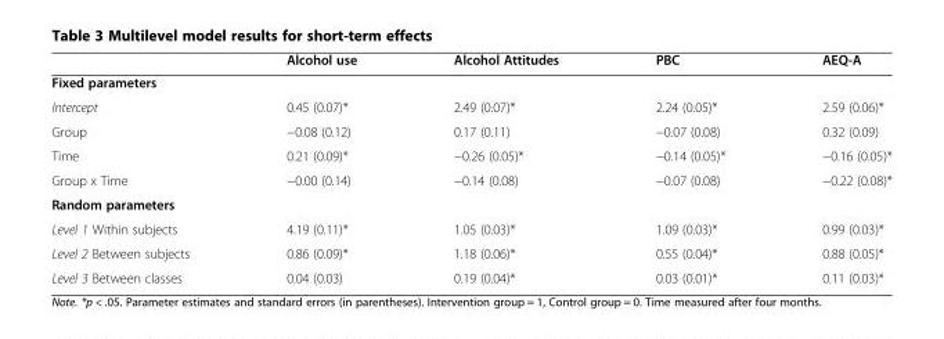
<table><thead><tr><td></td><td>Alcohol use</td><td>Alcohol Attitudes</td><td>PBC</td><td>AEQ-A</td></tr></thead><tbody><tr><td colspan="5">Fixed parameters</td></tr><tr><td>Intercept</td><td>0.45 (0.07)*</td><td>2.49 (0.07)*</td><td>2.24 (0.05)*</td><td>2.59 (0.06)*</td></tr><tr><td>Group</td><td>−0.08 (0.12)</td><td>0.17 (0.11)</td><td>−0.07 (0.08)</td><td>0.32 (0.09)</td></tr><tr><td>Time</td><td>0.21 (0.09)*</td><td>−0.26 (0.05)*</td><td>−0.14 (0.05)*</td><td>−0.16 (0.05)*</td></tr><tr><td>Group x Time</td><td>−0.00 (0.14)</td><td>−0.14 (0.08)</td><td>−0.07 (0.08)</td><td>−0.22 (0.08)*</td></tr><tr><td colspan="5">Random parameters</td></tr><tr><td>Level 1 Within subjects</td><td>4.19 (0.11)*</td><td>1.05 (0.03)*</td><td>1.09 (0.03)*</td><td>0.99 (0.03)*</td></tr><tr><td>Level 2 Between subjects</td><td>0.86 (0.09)*</td><td>1.18 (0.06)*</td><td>0.55 (0.04)*</td><td>0.88 (0.05)*</td></tr><tr><td>Level 3 Between classes</td><td>0.04 (0.03)</td><td>0.19 (0.04)*</td><td>0.03 (0.01)*</td><td>0.11 (0.03)*</td></tr></tbody></table>